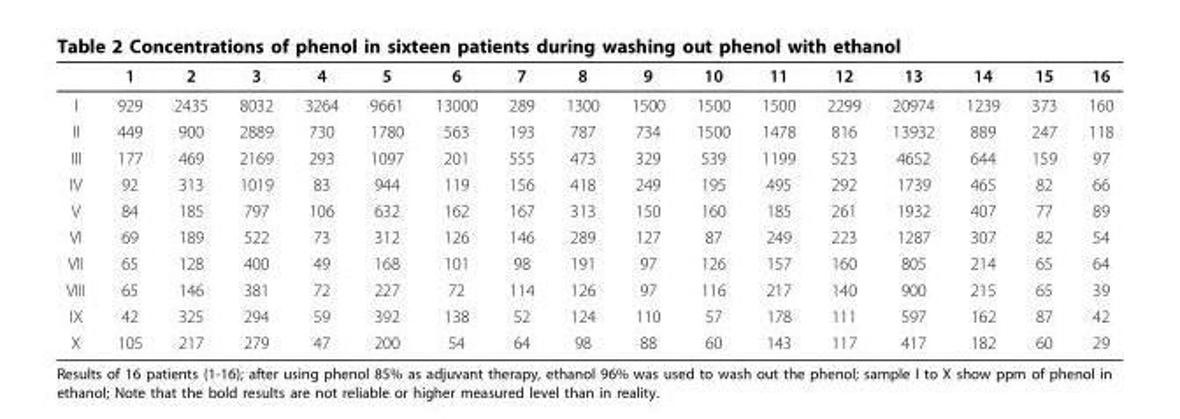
<table><thead><tr><td></td><td>1</td><td>2</td><td>3</td><td>4</td><td>5</td><td>6</td><td>7</td><td>8</td><td>9</td><td>10</td><td>11</td><td>12</td><td>13</td><td>14</td><td>15</td><td>16</td></tr></thead><tbody><tr><td>I</td><td>929</td><td>2435</td><td>8032</td><td>3264</td><td>9661</td><td>13000</td><td>289</td><td>1300</td><td>1500</td><td>1500</td><td>1500</td><td>2299</td><td>20974</td><td>1239</td><td>373</td><td>160</td></tr><tr><td>II</td><td>449</td><td>900</td><td>2889</td><td>730</td><td>1780</td><td>563</td><td>193</td><td>787</td><td>734</td><td>1500</td><td>1478</td><td>816</td><td>13932</td><td>889</td><td>247</td><td>118</td></tr><tr><td>III</td><td>177</td><td>469</td><td>2169</td><td>293</td><td>1097</td><td>201</td><td>555</td><td>473</td><td>329</td><td>539</td><td>1199</td><td>523</td><td>4652</td><td>644</td><td>159</td><td>97</td></tr><tr><td>IV</td><td>92</td><td>313</td><td>1019</td><td>83</td><td>944</td><td>119</td><td>156</td><td>418</td><td>249</td><td>195</td><td>495</td><td>292</td><td>1739</td><td>465</td><td>82</td><td>66</td></tr><tr><td>V</td><td>84</td><td>185</td><td>797</td><td>106</td><td>632</td><td>162</td><td>167</td><td>313</td><td>150</td><td>160</td><td>185</td><td>261</td><td>1932</td><td>407</td><td>77</td><td>89</td></tr><tr><td>VI</td><td>69</td><td>189</td><td>522</td><td>73</td><td>312</td><td>126</td><td>146</td><td>289</td><td>127</td><td>87</td><td>249</td><td>223</td><td>1287</td><td>307</td><td>82</td><td>54</td></tr><tr><td>VII</td><td>65</td><td>128</td><td>400</td><td>49</td><td>168</td><td>101</td><td>98</td><td>191</td><td>97</td><td>126</td><td>157</td><td>160</td><td>805</td><td>214</td><td>65</td><td>64</td></tr><tr><td>VIII</td><td>65</td><td>146</td><td>381</td><td>72</td><td>227</td><td>72</td><td>114</td><td>126</td><td>97</td><td>116</td><td>217</td><td>140</td><td>900</td><td>215</td><td>65</td><td>39</td></tr><tr><td>IX</td><td>42</td><td>325</td><td>294</td><td>59</td><td>392</td><td>138</td><td>52</td><td>124</td><td>110</td><td>57</td><td>178</td><td>111</td><td>597</td><td>162</td><td>87</td><td>42</td></tr><tr><td>X</td><td>105</td><td>217</td><td>279</td><td>47</td><td>200</td><td>54</td><td>64</td><td>98</td><td>88</td><td>60</td><td>143</td><td>117</td><td>417</td><td>182</td><td>60</td><td>29</td></tr></tbody></table>